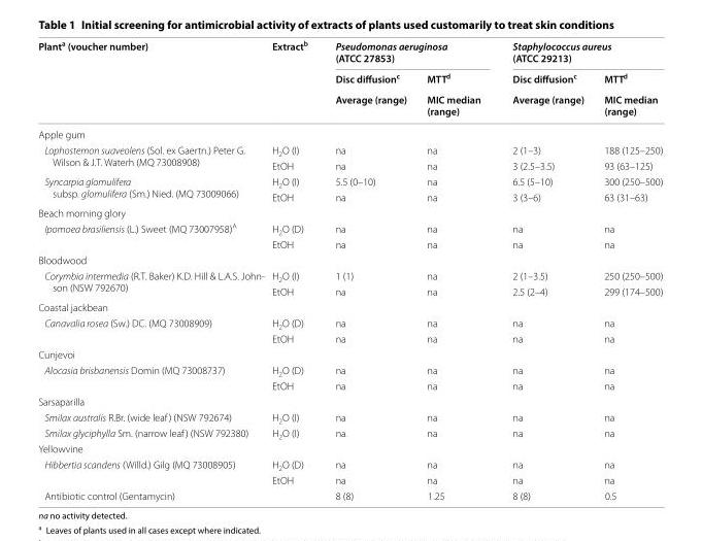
<table><thead><tr><td rowspan="3">Plant<sup>a</sup> (voucher number)</td><td rowspan="3">Extract<sup>b</sup></td><td colspan="2">Pseudomonas aeruginosa (ATCC 27853)</td><td colspan="2">Staphylococcus aureus (ATCC 29213)</td></tr><tr><td rowspan="2">Disc diffusion<sup>c</sup> Average (range)</td><td rowspan="2">MTT<sup>d</sup> MIC median (range)</td><td rowspan="2">Disc diffusion<sup>c</sup> Average (range)</td><td rowspan="2">MTT<sup>d</sup> MIC median (range)</td></tr><tr></tr></thead><tbody><tr><td colspan="6">Apple gum</td></tr><tr><td rowspan="2">Lophostemon suaveolens (Sol. ex Gaertn.) Peter G. Wilson &amp; J.T. Waterh (MQ 73008908)</td><td>H<sub>2</sub>O (I)</td><td>na</td><td>na</td><td>2 (1–3)</td><td>188 (125–250)</td></tr><tr><td>EtOH</td><td>na</td><td>na</td><td>3 (2.5–3.5)</td><td>93 (63–125)</td></tr><tr><td rowspan="2">Syncarpia glomulifera subsp. glomulifera (Sm.) Nied. (MQ 73009066)</td><td>H<sub>2</sub>O (I)</td><td>5.5 (0–10)</td><td>na</td><td>6.5 (5–10)</td><td>300 (250–500)</td></tr><tr><td>EtOH</td><td>na</td><td>na</td><td>3 (3–6)</td><td>63 (31–63)</td></tr><tr><td colspan="6">Beach morning glory</td></tr><tr><td rowspan="2">Ipomoea brasiliensis (L.) Sweet (MQ 73007958)<sup>A</sup></td><td>H<sub>2</sub>O (D)</td><td>na</td><td>na</td><td>na</td><td>na</td></tr><tr><td>EtOH</td><td>na</td><td>na</td><td>na</td><td>na</td></tr><tr><td colspan="6">Bloodwood</td></tr><tr><td rowspan="2">Corymbia intermedia (R.T. Baker) K.D. Hill &amp; L.A.S. John- son (NSW 792670)</td><td>H<sub>2</sub>O (I)</td><td>1 (1)</td><td>na</td><td>2 (1–3.5)</td><td>250 (250–500)</td></tr><tr><td>EtOH</td><td>na</td><td>na</td><td>2.5 (2–4)</td><td>299 (174–500)</td></tr><tr><td colspan="6">Coastal jackbean</td></tr><tr><td rowspan="2">Canavalia rosea (Sw.) DC. (MQ 73008909)</td><td>H<sub>2</sub>O (D)</td><td>na</td><td>na</td><td>na</td><td>na</td></tr><tr><td>EtOH</td><td>na</td><td>na</td><td>na</td><td>na</td></tr><tr><td colspan="6">Cunjevoi</td></tr><tr><td rowspan="2">Alocasia brisbanensis Domin (MQ 73008737)</td><td>H<sub>2</sub>O (D)</td><td>na</td><td>na</td><td>na</td><td>na</td></tr><tr><td>EtOH</td><td>na</td><td>na</td><td>na</td><td>na</td></tr><tr><td colspan="6">Sarsaparilla</td></tr><tr><td>Smilax australis R.Br. (wide leaf) (NSW 792674)</td><td>H<sub>2</sub>O (I)</td><td>na</td><td>na</td><td>na</td><td>na</td></tr><tr><td>Smilax glyciphylla Sm. (narrow leaf) (NSW 792380)</td><td>H<sub>2</sub>O (I)</td><td>na</td><td>na</td><td>na</td><td>na</td></tr><tr><td colspan="6">Yellowvine</td></tr><tr><td rowspan="2">Hibbertia scandens (Willd.) Gilg (MQ 73008905)</td><td>H<sub>2</sub>O (D)</td><td>na</td><td>na</td><td>na</td><td>na</td></tr><tr><td>EtOH</td><td>na</td><td>na</td><td>na</td><td>na</td></tr><tr><td>Antibiotic control (Gentamycin)</td><td></td><td>8 (8)</td><td>1.25</td><td>8 (8)</td><td>0.5</td></tr></tbody></table>